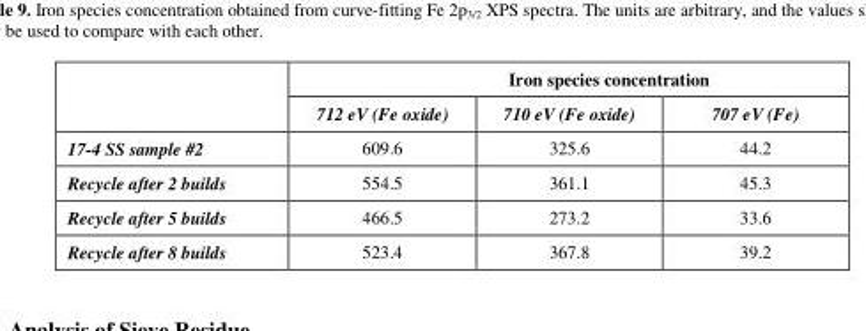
<table><thead><tr><td rowspan="2"></td><td colspan="3">Iron species concentration</td></tr><tr><td>712 eV (Fe oxide)</td><td>710 eV (Fe oxide)</td><td>707 eV (Fe)</td></tr></thead><tbody><tr><td>17-4 SS sample #2</td><td>609.6</td><td>325.6</td><td>44.2</td></tr><tr><td>Recycle after 2 builds</td><td>554.5</td><td>361.1</td><td>45.3</td></tr><tr><td>Recycle after 5 builds</td><td>466.5</td><td>273.2</td><td>33.6</td></tr><tr><td>Recycle after 8 builds</td><td>523.4</td><td>367.8</td><td>39.2</td></tr></tbody></table>